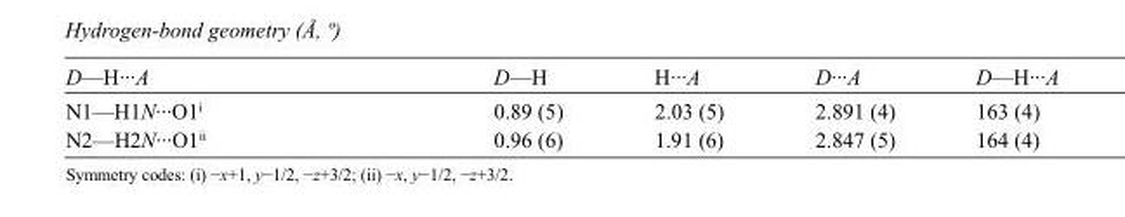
<table><tbody><tr><td>D—H···A</td><td>D—H</td><td>H···A</td><td>D···A</td><td>D—H···A</td></tr><tr><td>N1—H1N···O1<sup>i</sup></td><td>0.89 (5)</td><td>2.03 (5)</td><td>2.891 (4)</td><td>163 (4)</td></tr><tr><td>N2—H2N···O1<sup>ii</sup></td><td>0.96 (6)</td><td>1.91 (6)</td><td>2.847 (5)</td><td>164 (4)</td></tr></tbody></table>